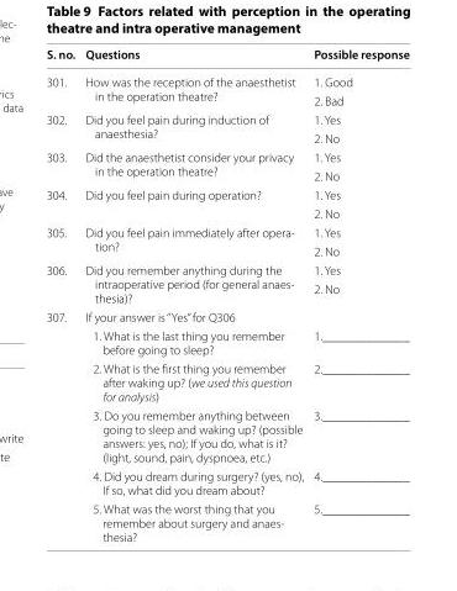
<table><thead><tr><td>S. no.</td><td>Questions</td><td>Possible response</td></tr></thead><tbody><tr><td rowspan="2">301.</td><td rowspan="2">How was the reception of the anaesthetist in the operation theatre?</td><td>1. Good</td></tr><tr><td>2. Bad</td></tr><tr><td rowspan="2">302.</td><td rowspan="2">Did you feel pain during induction of anaesthesia?</td><td>1. Yes</td></tr><tr><td>2. No</td></tr><tr><td rowspan="2">303.</td><td rowspan="2">Did the anaesthetist consider your privacy in the operation theatre?</td><td>1. Yes</td></tr><tr><td>2. No</td></tr><tr><td rowspan="2">304.</td><td rowspan="2">Did you feel pain during operation?</td><td>1. Yes</td></tr><tr><td>2. No</td></tr><tr><td rowspan="2">305.</td><td rowspan="2">Did you feel pain immediately after opera- tion?</td><td>1. Yes</td></tr><tr><td>2. No</td></tr><tr><td rowspan="2">306.</td><td rowspan="2">Did you remember anything during the intraoperative period (for general anaes- thesia)?</td><td>1. Yes</td></tr><tr><td>2. No</td></tr><tr><td rowspan="6">307.</td><td colspan="2">If your answer is ‘’Yes’’ for Q306</td></tr><tr><td>1. What is the last thing you remember before going to sleep?</td><td>1.______________</td></tr><tr><td>2. What is the first thing you remember after waking up? (we used this question for analysis)</td><td>2.______________</td></tr><tr><td>3. Do you remember anything between going to sleep and waking up? (possible answers: yes, no); If you do, what is it? (light, sound, pain, dyspnoea, etc.)</td><td>3.______________</td></tr><tr><td>4. Did you dream during surgery? (yes, no), If so, what did you dream about?</td><td>4.______________</td></tr><tr><td>5. What was the worst thing that you remember about surgery and anaes- thesia?</td><td>5.______________</td></tr></tbody></table>